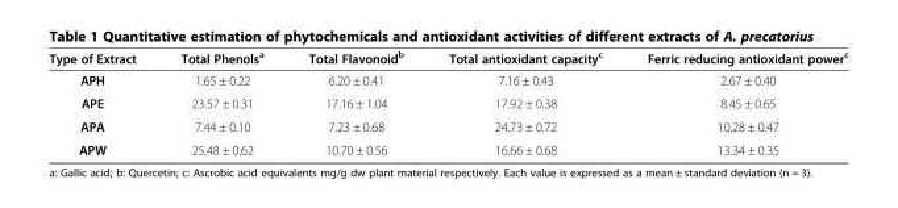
<table><thead><tr><td>Type of Extract</td><td>Total Phenols<sup>a</sup></td><td>Total Flavonoid<sup>b</sup></td><td>Total antioxidant capacity<sup>c</sup></td><td>Ferric reducing antioxidant power<sup>c</sup></td></tr></thead><tbody><tr><td>APH</td><td>1.65 ± 0.22</td><td>6.20 ± 0.41</td><td>7.16 ± 0.43</td><td>2.67 ± 0.40</td></tr><tr><td>APE</td><td>23.57 ± 0.31</td><td>17.16 ± 1.04</td><td>17.92 ± 0.38</td><td>8.45 ± 0.65</td></tr><tr><td>APA</td><td>7.44 ± 0.10</td><td>7.23 ± 0.68</td><td>24.73 ± 0.72</td><td>10.28 ± 0.47</td></tr><tr><td>APW</td><td>25.48 ± 0.62</td><td>10.70 ± 0.56</td><td>16.66 ± 0.68</td><td>13.34 ± 0.35</td></tr></tbody></table>